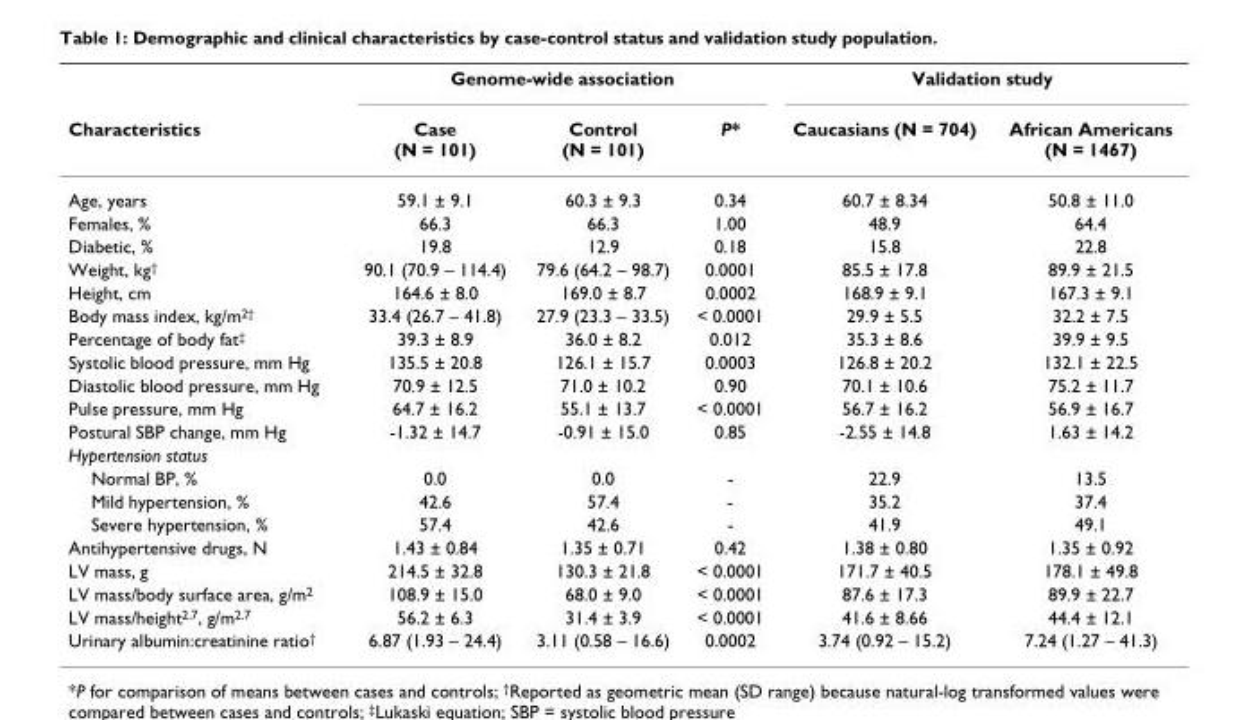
<table><thead><tr><td rowspan="2">Characteristics</td><td colspan="3">Genome-wide association</td><td colspan="2">Validation study</td></tr><tr><td>Case (N = 101)</td><td>Control (N = 101)</td><td>P*</td><td>Caucasians (N = 704)</td><td>African Americans (N = 1467)</td></tr></thead><tbody><tr><td>Age, years</td><td>59.1 ± 9.1</td><td>60.3 ± 9.3</td><td>0.34</td><td>60.7 ± 8.34</td><td>50.8 ± 11.0</td></tr><tr><td>Females, %</td><td>66.3</td><td>66.3</td><td>1.00</td><td>48.9</td><td>64.4</td></tr><tr><td>Diabetic, %</td><td>19.8</td><td>12.9</td><td>0.18</td><td>15.8</td><td>22.8</td></tr><tr><td>Weight, kg<sup>†</sup></td><td>90.1 (70.9 – 114.4)</td><td>79.6 (64.2 – 98.7)</td><td>0.0001</td><td>85.5 ± 17.8</td><td>89.9 ± 21.5</td></tr><tr><td>Height, cm</td><td>164.6 ± 8.0</td><td>169.0 ± 8.7</td><td>0.0002</td><td>168.9 ± 9.1</td><td>167.3 ± 9.1</td></tr><tr><td>Body mass index, kg/m<sup>2†</sup></td><td>33.4 (26.7 – 41.8)</td><td>27.9 (23.3 – 33.5)</td><td>&lt; 0.0001</td><td>29.9 ± 5.5</td><td>32.2 ± 7.5</td></tr><tr><td>Percentage of body fat<sup>‡</sup></td><td>39.3 ± 8.9</td><td>36.0 ± 8.2</td><td>0.012</td><td>35.3 ± 8.6</td><td>39.9 ± 9.5</td></tr><tr><td>Systolic blood pressure, mm Hg</td><td>135.5 ± 20.8</td><td>126.1 ± 15.7</td><td>0.0003</td><td>126.8 ± 20.2</td><td>132.1 ± 22.5</td></tr><tr><td>Diastolic blood pressure, mm Hg</td><td>70.9 ± 12.5</td><td>71.0 ± 10.2</td><td>0.90</td><td>70.1 ± 10.6</td><td>75.2 ± 11.7</td></tr><tr><td>Pulse pressure, mm Hg</td><td>64.7 ± 16.2</td><td>55.1 ± 13.7</td><td>&lt; 0.0001</td><td>56.7 ± 16.2</td><td>56.9 ± 16.7</td></tr><tr><td>Postural SBP change, mm Hg</td><td>-1.32 ± 14.7</td><td>-0.91 ± 15.0</td><td>0.85</td><td>-2.55 ± 14.8</td><td>1.63 ± 14.2</td></tr><tr><td colspan="6">Hypertension status</td></tr><tr><td>Normal BP, %</td><td>0.0</td><td>0.0</td><td>-</td><td>22.9</td><td>13.5</td></tr><tr><td>Mild hypertension, %</td><td>42.6</td><td>57.4</td><td>-</td><td>35.2</td><td>37.4</td></tr><tr><td>Severe hypertension, %</td><td>57.4</td><td>42.6</td><td>-</td><td>41.9</td><td>49.1</td></tr><tr><td>Antihypertensive drugs, N</td><td>1.43 ± 0.84</td><td>1.35 ± 0.71</td><td>0.42</td><td>1.38 ± 0.80</td><td>1.35 ± 0.92</td></tr><tr><td>LV mass, g</td><td>214.5 ± 32.8</td><td>130.3 ± 21.8</td><td>&lt; 0.0001</td><td>171.7 ± 40.5</td><td>178.1 ± 49.8</td></tr><tr><td>LV mass/body surface area, g/m<sup>2</sup></td><td>108.9 ± 15.0</td><td>68.0 ± 9.0</td><td>&lt; 0.0001</td><td>87.6 ± 17.3</td><td>89.9 ± 22.7</td></tr><tr><td>LV mass/height<sup>2.7</sup>, g/m<sup>2.7</sup></td><td>56.2 ± 6.3</td><td>31.4 ± 3.9</td><td>&lt; 0.0001</td><td>41.6 ± 8.66</td><td>44.4 ± 12.1</td></tr><tr><td>Urinary albumin:creatinine ratio<sup>†</sup></td><td>6.87 (1.93 – 24.4)</td><td>3.11 (0.58 – 16.6)</td><td>0.0002</td><td>3.74 (0.92 – 15.2)</td><td>7.24 (1.27 – 41.3)</td></tr></tbody></table>